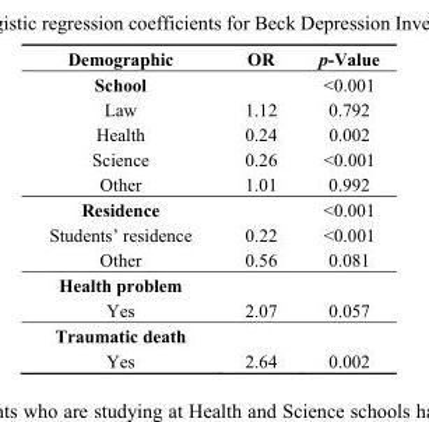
<table><thead><tr><td>Demographic</td><td>OR</td><td>p-Value</td></tr></thead><tbody><tr><td>School</td><td></td><td>&lt;0.001</td></tr><tr><td>Law</td><td>1.12</td><td>0.792</td></tr><tr><td>Health</td><td>0.24</td><td>0.002</td></tr><tr><td>Science</td><td>0.26</td><td>&lt;0.001</td></tr><tr><td>Other</td><td>1.01</td><td>0.992</td></tr><tr><td>Residence</td><td></td><td>&lt;0.001</td></tr><tr><td>Students’ residence</td><td>0.22</td><td>&lt;0.001</td></tr><tr><td>Other</td><td>0.56</td><td>0.081</td></tr><tr><td colspan="3">Health problem</td></tr><tr><td>Yes</td><td>2.07</td><td>0.057</td></tr><tr><td colspan="3">Traumatic death</td></tr><tr><td>Yes</td><td>2.64</td><td>0.002</td></tr></tbody></table>